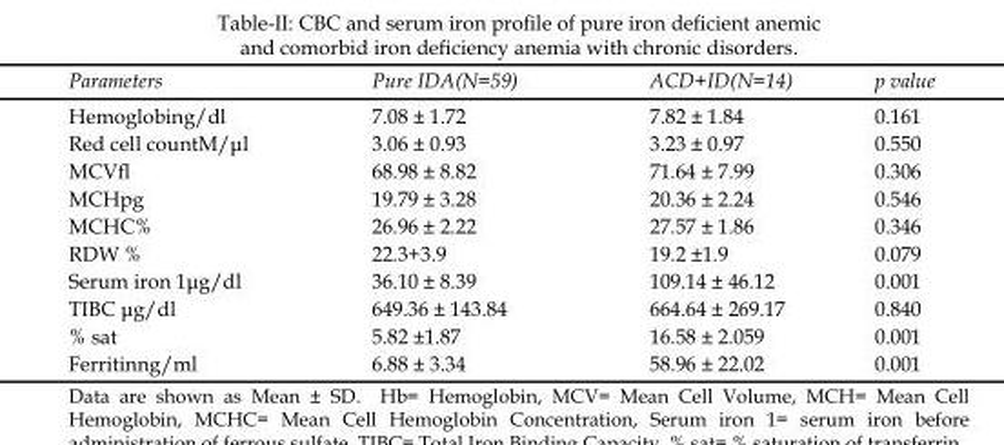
<table><thead><tr><td>Parameters</td><td>Pure IDA(N=59)</td><td>ACD+ID(N=14)</td><td>p value</td></tr></thead><tbody><tr><td>Hemoglobing/dl</td><td>7.08 ± 1.72</td><td>7.82 ± 1.84</td><td>0.161</td></tr><tr><td>Red cell countM/μl</td><td>3.06 ± 0.93</td><td>3.23 ± 0.97</td><td>0.550</td></tr><tr><td>MCVfl</td><td>68.98 ± 8.82</td><td>71.64 ± 7.99</td><td>0.306</td></tr><tr><td>MCHpg</td><td>19.79 ± 3.28</td><td>20.36 ± 2.24</td><td>0.546</td></tr><tr><td>MCHC%</td><td>26.96 ± 2.22</td><td>27.57 ± 1.86</td><td>0.346</td></tr><tr><td>RDW %</td><td>22.3+3.9</td><td>19.2 ±1.9</td><td>0.079</td></tr><tr><td>Serum iron 1μg/dl</td><td>36.10 ± 8.39</td><td>109.14 ± 46.12</td><td>0.001</td></tr><tr><td>TIBC μg/dl</td><td>649.36 ± 143.84</td><td>664.64 ± 269.17</td><td>0.840</td></tr><tr><td>% sat</td><td>5.82 ±1.87</td><td>16.58 ± 2.059</td><td>0.001</td></tr><tr><td>Ferritinng/ml</td><td>6.88 ± 3.34</td><td>58.96 ± 22.02</td><td>0.001</td></tr></tbody></table>